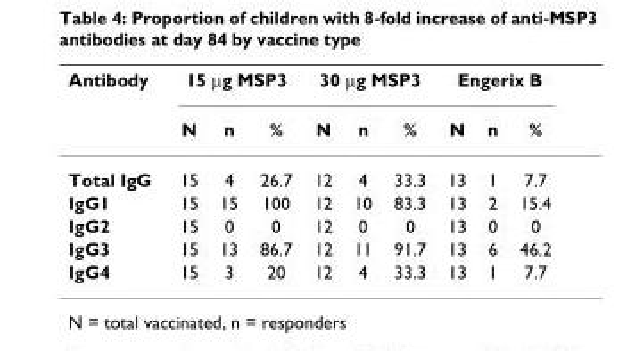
<table><thead><tr><td rowspan="2">Antibody</td><td colspan="3">15 μg MSP3</td><td colspan="3">30 μg MSP3</td><td colspan="3">Engerix B</td></tr><tr><td>N</td><td>n</td><td>%</td><td>N</td><td>n</td><td>%</td><td>N</td><td>n</td><td>%</td></tr></thead><tbody><tr><td>Total IgG</td><td>15</td><td>4</td><td>26.7</td><td>12</td><td>4</td><td>33.3</td><td>13</td><td>1</td><td>7.7</td></tr><tr><td>IgG1</td><td>15</td><td>15</td><td>100</td><td>12</td><td>10</td><td>83.3</td><td>13</td><td>2</td><td>15.4</td></tr><tr><td>IgG2</td><td>15</td><td>0</td><td>0</td><td>12</td><td>0</td><td>0</td><td>13</td><td>0</td><td>0</td></tr><tr><td>IgG3</td><td>15</td><td>13</td><td>86.7</td><td>12</td><td>11</td><td>91.7</td><td>13</td><td>6</td><td>46.2</td></tr><tr><td>IgG4</td><td>15</td><td>3</td><td>20</td><td>12</td><td>4</td><td>33.3</td><td>13</td><td>1</td><td>7.7</td></tr></tbody></table>